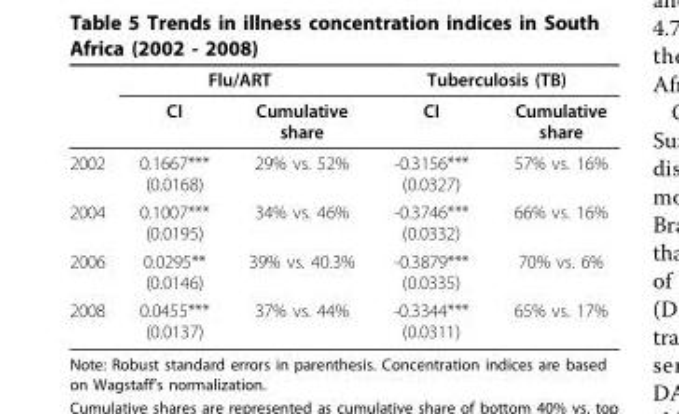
<table><thead><tr><td rowspan="2"></td><td colspan="2">Flu/ART</td><td colspan="2">Tuberculosis (TB)</td></tr><tr><td>CI</td><td>Cumulative share</td><td>CI</td><td>Cumulative share</td></tr></thead><tbody><tr><td>2002</td><td>0.1667*** (0.0168)</td><td>29% vs. 52%</td><td>-0.3156*** (0.0327)</td><td>57% vs. 16%</td></tr><tr><td>2004</td><td>0.1007*** (0.0195)</td><td>34% vs. 46%</td><td>-0.3746*** (0.0332)</td><td>66% vs. 16%</td></tr><tr><td>2006</td><td>0.0295** (0.0146)</td><td>39% vs. 40.3%</td><td>-0.3879*** (0.0335)</td><td>70% vs. 6%</td></tr><tr><td>2008</td><td>0.0455*** (0.0137)</td><td>37% vs. 44%</td><td>-0.3344*** (0.0311)</td><td>65% vs. 17%</td></tr></tbody></table>